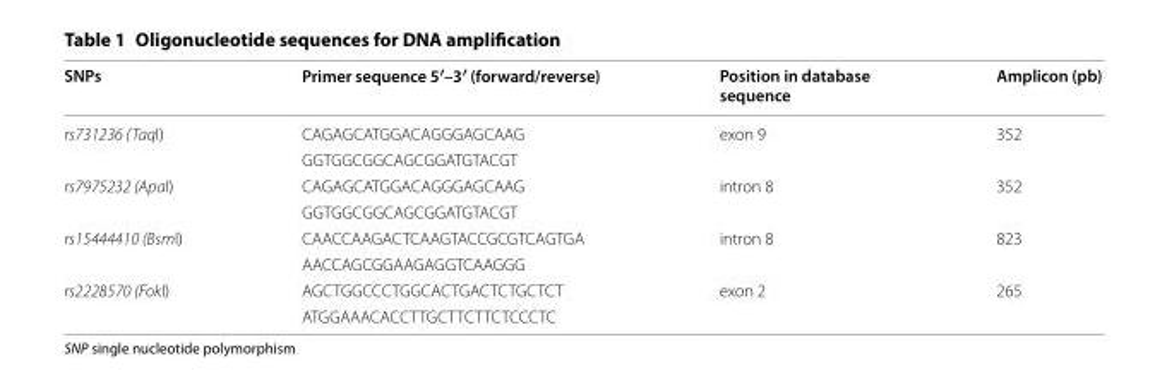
<table><thead><tr><td>SNPs</td><td>Primer sequence 5′–3′ (forward/reverse)</td><td>Position in database sequence</td><td>Amplicon (pb)</td></tr></thead><tbody><tr><td rowspan="2">rs731236 (TaqI)</td><td>CAGAGCATGGACAGGGAGCAAG</td><td rowspan="2">exon 9</td><td rowspan="2">352</td></tr><tr><td>GGTGGCGGCAGCGGATGTACGT</td></tr><tr><td rowspan="2">rs7975232 (ApaI)</td><td>CAGAGCATGGACAGGGAGCAAG</td><td rowspan="2">intron 8</td><td rowspan="2">352</td></tr><tr><td>GGTGGCGGCAGCGGATGTACGT</td></tr><tr><td rowspan="2">rs15444410 (BsmI)</td><td>CAACCAAGACTCAAGTACCGCGTCAGTGA</td><td rowspan="2">intron 8</td><td rowspan="2">823</td></tr><tr><td>AACCAGCGGAAGAGGTCAAGGG</td></tr><tr><td rowspan="2">rs2228570 (FokI)</td><td>AGCTGGCCCTGGCACTGACTCTGCTCT</td><td rowspan="2">exon 2</td><td rowspan="2">265</td></tr><tr><td>ATGGAAACACCTTGCTTCTTCTCCCTC</td></tr></tbody></table>